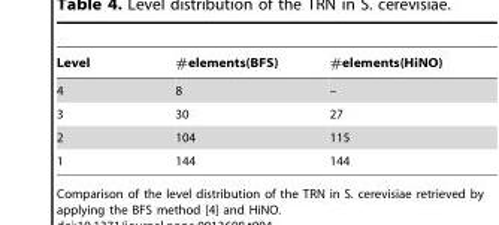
<table><thead><tr><td>Level</td><td>#elements(BFS)</td><td>#elements(HiNO)</td></tr></thead><tbody><tr><td>4</td><td>8</td><td>–</td></tr><tr><td>3</td><td>30</td><td>27</td></tr><tr><td>2</td><td>104</td><td>115</td></tr><tr><td>1</td><td>144</td><td>144</td></tr></tbody></table>